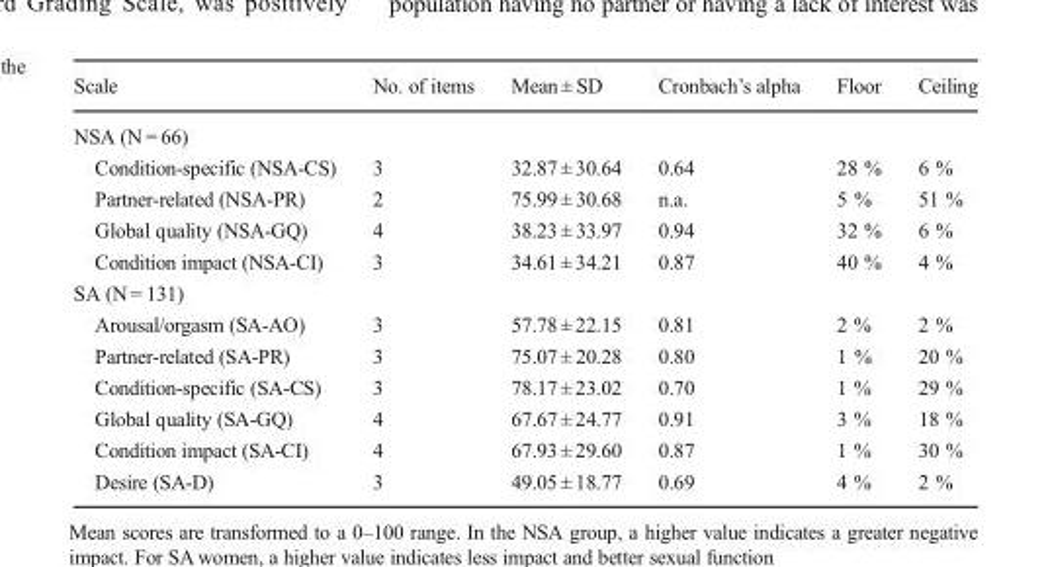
<table><thead><tr><td>Scale</td><td>No. of items</td><td>Mean ± SD</td><td>Cronbach’s alpha</td><td>Floor</td><td>Ceiling</td></tr></thead><tbody><tr><td colspan="6">NSA (N = 66)</td></tr><tr><td>Condition-specific (NSA-CS)</td><td>3</td><td>32.87 ± 30.64</td><td>0.64</td><td>28 %</td><td>6 %</td></tr><tr><td>Partner-related (NSA-PR)</td><td>2</td><td>75.99 ± 30.68</td><td>n.a.</td><td>5 %</td><td>51 %</td></tr><tr><td>Global quality (NSA-GQ)</td><td>4</td><td>38.23 ± 33.97</td><td>0.94</td><td>32 %</td><td>6 %</td></tr><tr><td>Condition impact (NSA-CI)</td><td>3</td><td>34.61 ± 34.21</td><td>0.87</td><td>40 %</td><td>4 %</td></tr><tr><td colspan="6">SA (N = 131)</td></tr><tr><td>Arousal/orgasm (SA-AO)</td><td>3</td><td>57.78 ± 22.15</td><td>0.81</td><td>2 %</td><td>2 %</td></tr><tr><td>Partner-related (SA-PR)</td><td>3</td><td>75.07 ± 20.28</td><td>0.80</td><td>1 %</td><td>20 %</td></tr><tr><td>Condition-specific (SA-CS)</td><td>3</td><td>78.17 ± 23.02</td><td>0.70</td><td>1 %</td><td>29 %</td></tr><tr><td>Global quality (SA-GQ)</td><td>4</td><td>67.67 ± 24.77</td><td>0.91</td><td>3 %</td><td>18 %</td></tr><tr><td>Condition impact (SA-CI)</td><td>4</td><td>67.93 ± 29.60</td><td>0.87</td><td>1 %</td><td>30 %</td></tr><tr><td>Desire (SA-D)</td><td>3</td><td>49.05 ± 18.77</td><td>0.69</td><td>4 %</td><td>2 %</td></tr></tbody></table>